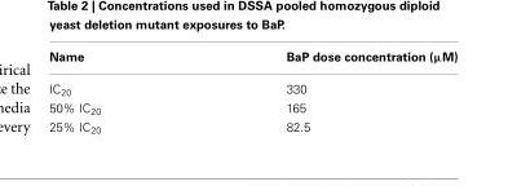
<table><thead><tr><td>Name</td><td>BaP dose concentration (µM)</td></tr></thead><tbody><tr><td>IC<sub>20</sub></td><td>330</td></tr><tr><td>50% IC<sub>20</sub></td><td>165</td></tr><tr><td>25% IC<sub>20</sub></td><td>82.5</td></tr></tbody></table>